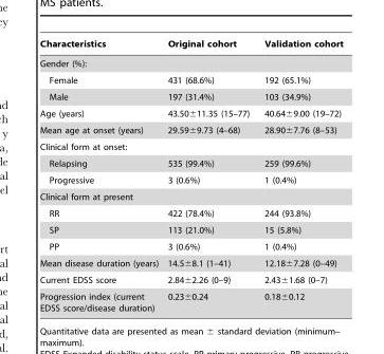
<table><thead><tr><td>Characteristics</td><td>Original cohort</td><td>Validation cohort</td></tr></thead><tbody><tr><td colspan="3">Gender (%):</td></tr><tr><td>Female</td><td>431 (68.6%)</td><td>192 (65.1%)</td></tr><tr><td>Male</td><td>197 (31.4%)</td><td>103 (34.9%)</td></tr><tr><td>Age (years)</td><td>43.50±11.35 (15–77)</td><td>40.64±9.00 (19–72)</td></tr><tr><td>Mean age at onset (years)</td><td>29.59±9.73 (4–68)</td><td>28.90±7.76 (8–53)</td></tr><tr><td colspan="3">Clinical form at onset:</td></tr><tr><td>Relapsing</td><td>535 (99.4%)</td><td>259 (99.6%)</td></tr><tr><td>Progressive</td><td>3 (0.6%)</td><td>1 (0.4%)</td></tr><tr><td colspan="3">Clinical form at present</td></tr><tr><td>RR</td><td>422 (78.4%)</td><td>244 (93.8%)</td></tr><tr><td>SP</td><td>113 (21.0%)</td><td>15 (5.8%)</td></tr><tr><td>PP</td><td>3 (0.6%)</td><td>1 (0.4%)</td></tr><tr><td>Mean disease duration (years)</td><td>14.5±8.1 (1–41)</td><td>12.18±7.28 (0–49)</td></tr><tr><td>Current EDSS score</td><td>2.84±2.26 (0–9)</td><td>2.43±1.68 (0–7)</td></tr><tr><td>Progression index (current EDSS score/disease duration)</td><td>0.23±0.24</td><td>0.18±0.12</td></tr></tbody></table>